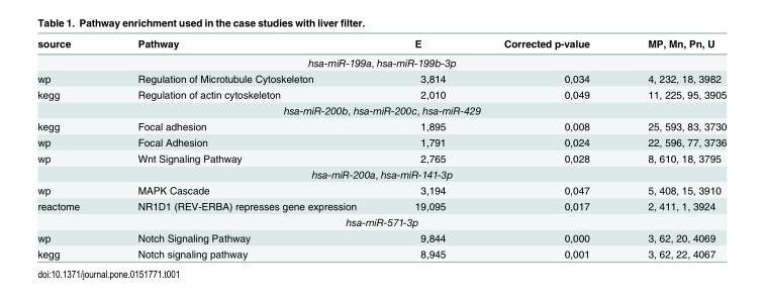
<table><thead><tr><td>source</td><td>Pathway</td><td>E</td><td>Corrected p-value</td><td>MP, Mn, Pn, U</td></tr></thead><tbody><tr><td colspan="5">hsa-miR-199a, hsa-miR-199b-3p</td></tr><tr><td>wp</td><td>Regulation of Microtubule Cytoskeleton</td><td>3,814</td><td>0,034</td><td>4, 232, 18, 3982</td></tr><tr><td>kegg</td><td>Regulation of actin cytoskeleton</td><td>2,010</td><td>0,049</td><td>11, 225, 95, 3905</td></tr><tr><td colspan="5">hsa-miR-200b, hsa-miR-200c, hsa-miR-429</td></tr><tr><td>kegg</td><td>Focal adhesion</td><td>1,895</td><td>0,008</td><td>25, 593, 83, 3730</td></tr><tr><td>wp</td><td>Focal Adhesion</td><td>1,791</td><td>0,024</td><td>22, 596, 77, 3736</td></tr><tr><td>wp</td><td>Wnt Signaling Pathway</td><td>2,765</td><td>0,028</td><td>8, 610, 18, 3795</td></tr><tr><td colspan="5">hsa-miR-200a, hsa-miR-141-3p</td></tr><tr><td>wp</td><td>MAPK Cascade</td><td>3,194</td><td>0,047</td><td>5, 408, 15, 3910</td></tr><tr><td>reactome</td><td>NR1D1 (REV-ERBA) represses gene expression</td><td>19,095</td><td>0,017</td><td>2, 411, 1, 3924</td></tr><tr><td colspan="5">hsa-miR-571-3p</td></tr><tr><td>wp</td><td>Notch Signaling Pathway</td><td>9,844</td><td>0,000</td><td>3, 62, 20, 4069</td></tr><tr><td>kegg</td><td>Notch signaling pathway</td><td>8,945</td><td>0,001</td><td>3, 62, 22, 4067</td></tr></tbody></table>